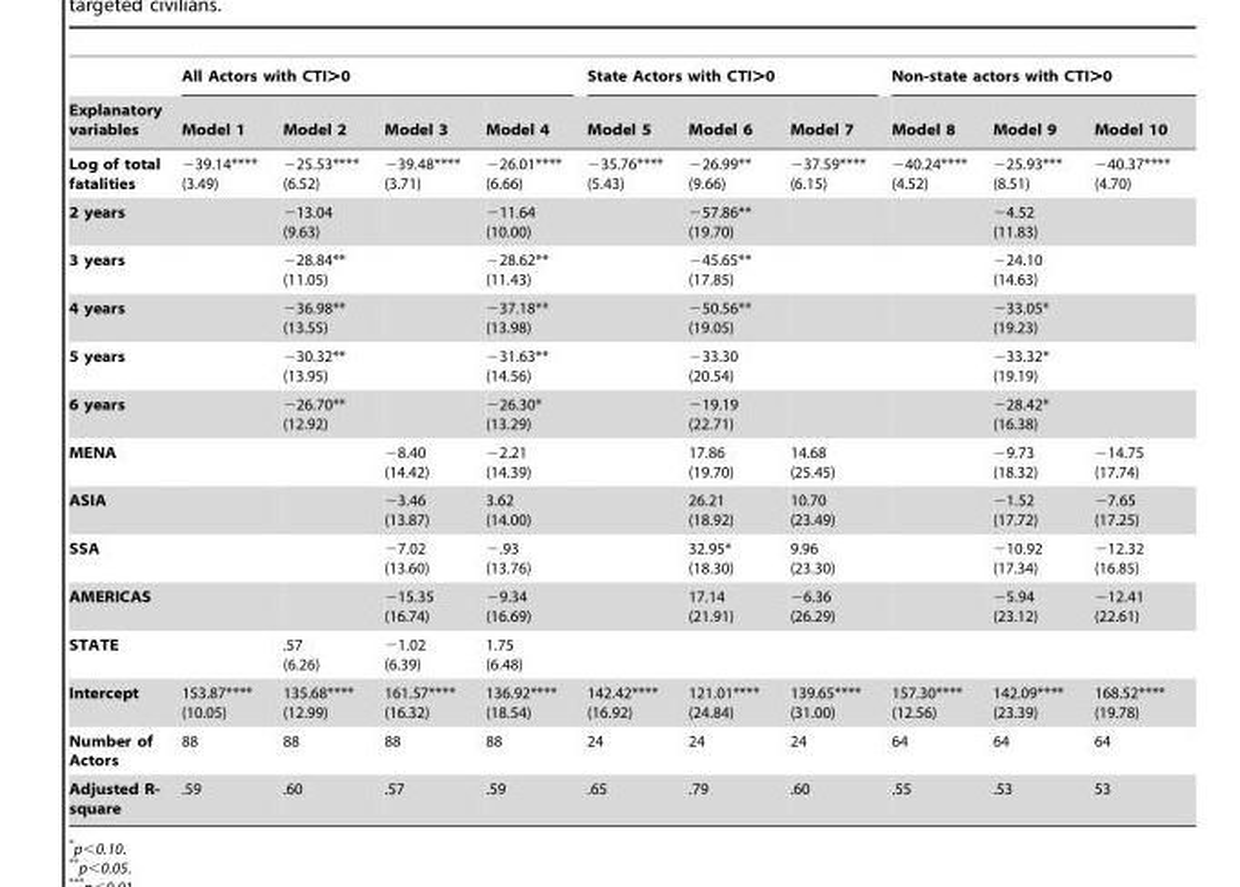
<table><thead><tr><td rowspan="2">Explanatory variables</td><td colspan="4">All Actors with CTI&gt;0</td><td colspan="3">State Actors with CTI&gt;0</td><td colspan="3">Non-state actors with CTI&gt;0</td></tr><tr><td>Model 1</td><td>Model 2</td><td>Model 3</td><td>Model 4</td><td>Model 5</td><td>Model 6</td><td>Model 7</td><td>Model 8</td><td>Model 9</td><td>Model 10</td></tr></thead><tbody><tr><td>Log of total fatalities</td><td>−39.14**** (3.49)</td><td>−25.53**** (6.52)</td><td>−39.48**** (3.71)</td><td>−26.01**** (6.66)</td><td>−35.76**** (5.43)</td><td>−26.99** (9.66)</td><td>−37.59**** (6.15)</td><td>−40.24**** (4.52)</td><td>−25.93*** (8.51)</td><td>−40.37**** (4.70)</td></tr><tr><td>2 years</td><td></td><td>−13.04 (9.63)</td><td></td><td>−11.64 (10.00)</td><td></td><td>−57.86** (19.70)</td><td></td><td></td><td>−4.52 (11.83)</td><td></td></tr><tr><td>3 years</td><td></td><td>−28.84** (11.05)</td><td></td><td>−28.62** (11.43)</td><td></td><td>−45.65** (17.85)</td><td></td><td></td><td>−24.10 (14.63)</td><td></td></tr><tr><td>4 years</td><td></td><td>−36.98** (13.55)</td><td></td><td>−37.18** (13.98)</td><td></td><td>−50.56** (19.05)</td><td></td><td></td><td>−33.05* (19.23)</td><td></td></tr><tr><td>5 years</td><td></td><td>−30.32** (13.95)</td><td></td><td>−31.63** (14.56)</td><td></td><td>−33.30 (20.54)</td><td></td><td></td><td>−33.32* (19.19)</td><td></td></tr><tr><td>6 years</td><td></td><td>−26.70** (12.92)</td><td></td><td>−26.30* (13.29)</td><td></td><td>−19.19 (22.71)</td><td></td><td></td><td>−28.42* (16.38)</td><td></td></tr><tr><td>MENA</td><td></td><td></td><td>−8.40 (14.42)</td><td>−2.21 (14.39)</td><td></td><td>17.86 (19.70)</td><td>14.68 (25.45)</td><td></td><td>−9.73 (18.32)</td><td>−14.75 (17.74)</td></tr><tr><td>ASIA</td><td></td><td></td><td>−3.46 (13.87)</td><td>3.62 (14.00)</td><td></td><td>26.21 (18.92)</td><td>10.70 (23.49)</td><td></td><td>−1.52 (17.72)</td><td>−7.65 (17.25)</td></tr><tr><td>SSA</td><td></td><td></td><td>−7.02 (13.60)</td><td>−.93 (13.76)</td><td></td><td>32.95* (18.30)</td><td>9.96 (23.30)</td><td></td><td>−10.92 (17.34)</td><td>−12.32 (16.85)</td></tr><tr><td>AMERICAS</td><td></td><td></td><td>−15.35 (16.74)</td><td>−9.34 (16.69)</td><td></td><td>17.14 (21.91)</td><td>−6.36 (26.29)</td><td></td><td>−5.94 (23.12)</td><td>−12.41 (22.61)</td></tr><tr><td>STATE</td><td></td><td>.57 (6.26)</td><td>−1.02 (6.39)</td><td>1.75 (6.48)</td><td></td><td></td><td></td><td></td><td></td><td></td></tr><tr><td>Intercept</td><td>153.87**** (10.05)</td><td>135.68**** (12.99)</td><td>161.57**** (16.32)</td><td>136.92**** (18.54)</td><td>142.42**** (16.92)</td><td>121.01**** (24.84)</td><td>139.65**** (31.00)</td><td>157.30**** (12.56)</td><td>142.09**** (23.39)</td><td>168.52**** (19.78)</td></tr><tr><td>Number of Actors</td><td>88</td><td>88</td><td>88</td><td>88</td><td>24</td><td>24</td><td>24</td><td>64</td><td>64</td><td>64</td></tr><tr><td>Adjusted R- square</td><td>.59</td><td>.60</td><td>.57</td><td>.59</td><td>.65</td><td>.79</td><td>.60</td><td>.55</td><td>.53</td><td>53</td></tr></tbody></table>